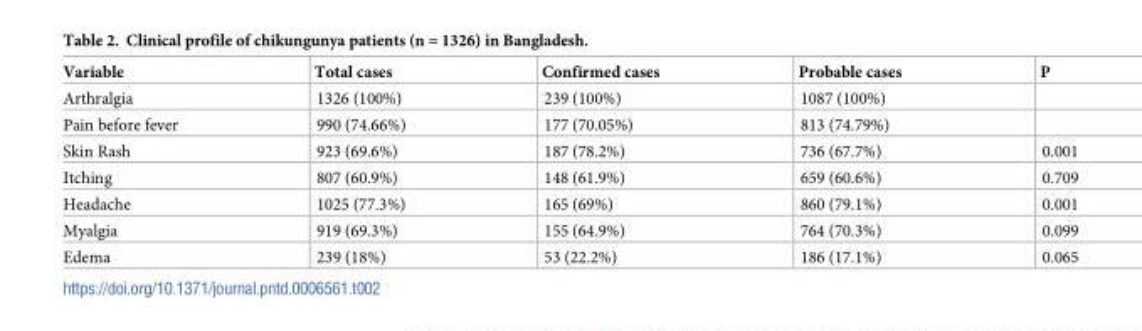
<table><thead><tr><td>Variable</td><td>Total cases</td><td>Confirmed cases</td><td>Probable cases</td><td>P</td></tr></thead><tbody><tr><td>Arthralgia</td><td>1326 (100%)</td><td>239 (100%)</td><td>1087 (100%)</td><td></td></tr><tr><td>Pain before fever</td><td>990 (74.66%)</td><td>177 (70.05%)</td><td>813 (74.79%)</td><td></td></tr><tr><td>Skin Rash</td><td>923 (69.6%)</td><td>187 (78.2%)</td><td>736 (67.7%)</td><td>0.001</td></tr><tr><td>Itching</td><td>807 (60.9%)</td><td>148 (61.9%)</td><td>659 (60.6%)</td><td>0.709</td></tr><tr><td>Headache</td><td>1025 (77.3%)</td><td>165 (69%)</td><td>860 (79.1%)</td><td>0.001</td></tr><tr><td>Myalgia</td><td>919 (69.3%)</td><td>155 (64.9%)</td><td>764 (70.3%)</td><td>0.099</td></tr><tr><td>Edema</td><td>239 (18%)</td><td>53 (22.2%)</td><td>186 (17.1%)</td><td>0.065</td></tr></tbody></table>